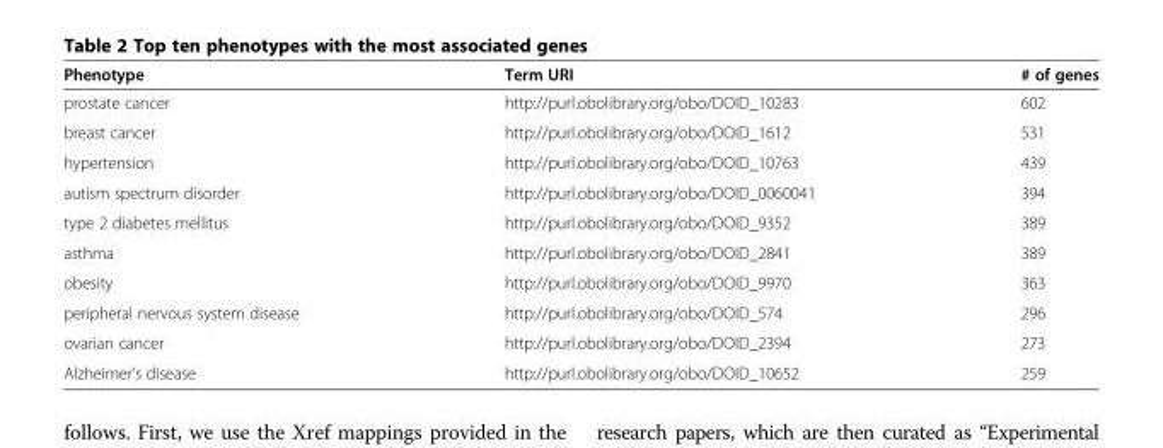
<table><thead><tr><td>Phenotype</td><td>Term URI</td><td># of genes</td></tr></thead><tbody><tr><td>prostate cancer</td><td>http://purl.obolibrary.org/obo/DOID_10283</td><td>602</td></tr><tr><td>breast cancer</td><td>http://purl.obolibrary.org/obo/DOID_1612</td><td>531</td></tr><tr><td>hypertension</td><td>http://purl.obolibrary.org/obo/DOID_10763</td><td>439</td></tr><tr><td>autism spectrum disorder</td><td>http://purl.obolibrary.org/obo/DOID_0060041</td><td>394</td></tr><tr><td>type 2 diabetes mellitus</td><td>http://purl.obolibrary.org/obo/DOID_9352</td><td>389</td></tr><tr><td>asthma</td><td>http://purl.obolibrary.org/obo/DOID_2841</td><td>389</td></tr><tr><td>obesity</td><td>http://purl.obolibrary.org/obo/DOID_9970</td><td>363</td></tr><tr><td>peripheral nervous system disease</td><td>http://purl.obolibrary.org/obo/DOID_574</td><td>296</td></tr><tr><td>ovarian cancer</td><td>http://purl.obolibrary.org/obo/DOID_2394</td><td>273</td></tr><tr><td>Alzheimer’s disease</td><td>http://purl.obolibrary.org/obo/DOID_10652</td><td>259</td></tr></tbody></table>